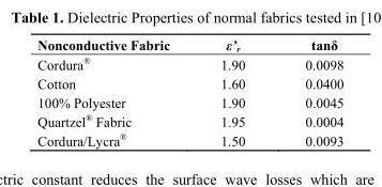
<table><thead><tr><td>Nonconductive Fabric</td><td>ε’<sub>r</sub></td><td>tanδ</td></tr></thead><tbody><tr><td>Cordura<sup>®</sup></td><td>1.90</td><td>0.0098</td></tr><tr><td>Cotton</td><td>1.60</td><td>0.0400</td></tr><tr><td>100% Polyester</td><td>1.90</td><td>0.0045</td></tr><tr><td>Quartzel<sup>®</sup> Fabric</td><td>1.95</td><td>0.0004</td></tr><tr><td>Cordura/Lycra<sup>®</sup></td><td>1.50</td><td>0.0093</td></tr></tbody></table>